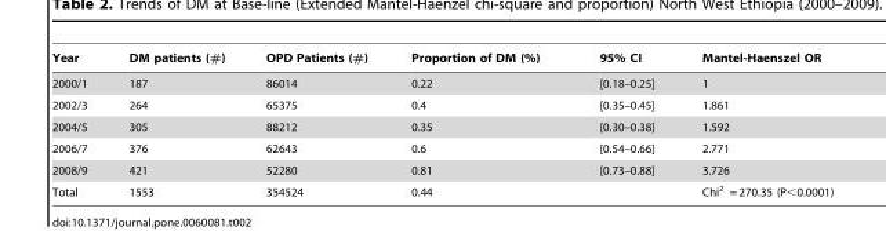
<table><thead><tr><td>Year</td><td>DM patients (#)</td><td>OPD Patients (#)</td><td>Proportion of DM (%)</td><td>95% CI</td><td>Mantel-Haenszel OR</td></tr></thead><tbody><tr><td>2000/1</td><td>187</td><td>86014</td><td>0.22</td><td>[0.18–0.25]</td><td>1</td></tr><tr><td>2002/3</td><td>264</td><td>65375</td><td>0.4</td><td>[0.35–0.45]</td><td>1.861</td></tr><tr><td>2004/5</td><td>305</td><td>88212</td><td>0.35</td><td>[0.30–0.38]</td><td>1.592</td></tr><tr><td>2006/7</td><td>376</td><td>62643</td><td>0.6</td><td>[0.54–0.66]</td><td>2.771</td></tr><tr><td>2008/9</td><td>421</td><td>52280</td><td>0.81</td><td>[0.73–0.88]</td><td>3.726</td></tr><tr><td>Total</td><td>1553</td><td>354524</td><td>0.44</td><td></td><td>Chi<sup>2</sup> = 270.35 (P&lt;0.0001)</td></tr></tbody></table>